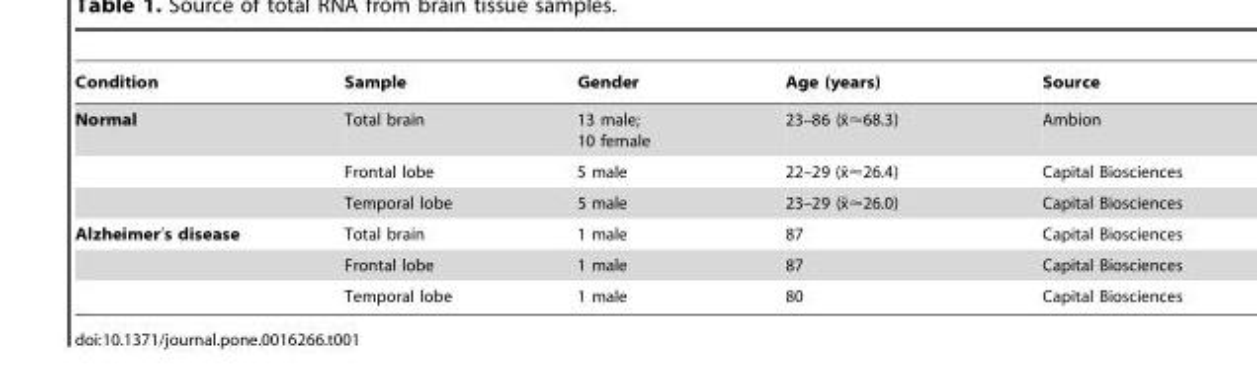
<table><thead><tr><td>Condition</td><td>Sample</td><td>Gender</td><td>Age (years)</td><td>Source</td></tr></thead><tbody><tr><td rowspan="3">Normal</td><td>Total brain</td><td>13 male; 10 female</td><td>23–86 (x˜&lt;68.3)</td><td>Ambion</td></tr><tr><td>Frontal lobe</td><td>5 male</td><td>22–29 (x˜&lt;26.4)</td><td>Capital Biosciences</td></tr><tr><td>Temporal lobe</td><td>5 male</td><td>23–29 (x˜&lt;26.0)</td><td>Capital Biosciences</td></tr><tr><td rowspan="3">Alzheimer’s disease</td><td>Total brain</td><td>1 male</td><td>87</td><td>Capital Biosciences</td></tr><tr><td>Frontal lobe</td><td>1 male</td><td>87</td><td>Capital Biosciences</td></tr><tr><td>Temporal lobe</td><td>1 male</td><td>80</td><td>Capital Biosciences</td></tr></tbody></table>